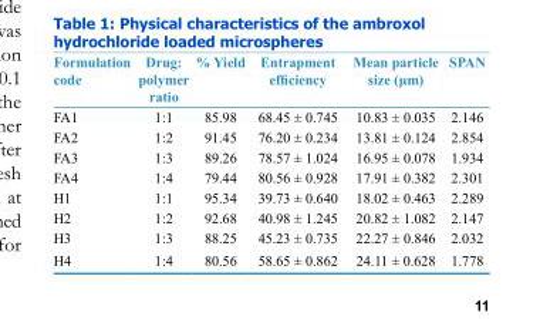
<table><thead><tr><td>Formulation code</td><td>Drug: polymer ratio</td><td>% Yield</td><td>Entrapment efficiency</td><td>Mean particle size (μm)</td><td>SPAN</td></tr></thead><tbody><tr><td>FA1</td><td>1:1</td><td>85.98</td><td>68.45 ± 0.745</td><td>10.83 ± 0.035</td><td>2.146</td></tr><tr><td>FA2</td><td>1:2</td><td>91.45</td><td>76.20 ± 0.234</td><td>13.81 ± 0.124</td><td>2.854</td></tr><tr><td>FA3</td><td>1:3</td><td>89.26</td><td>78.57 ± 1.024</td><td>16.95 ± 0.078</td><td>1.934</td></tr><tr><td>FA4</td><td>1:4</td><td>79.44</td><td>80.56 ± 0.928</td><td>17.91 ± 0.382</td><td>2.301</td></tr><tr><td>H1</td><td>1:1</td><td>95.34</td><td>39.73 ± 0.640</td><td>18.02 ± 0.463</td><td>2.289</td></tr><tr><td>H2</td><td>1:2</td><td>92.68</td><td>40.98 ± 1.245</td><td>20.82 ± 1.082</td><td>2.147</td></tr><tr><td>H3</td><td>1:3</td><td>88.25</td><td>45.23 ± 0.735</td><td>22.27 ± 0.846</td><td>2.032</td></tr><tr><td>H4</td><td>1:4</td><td>80.56</td><td>58.65 ± 0.862</td><td>24.11 ± 0.628</td><td>1.778</td></tr></tbody></table>